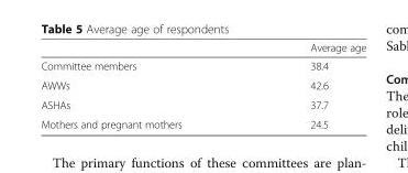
<table><thead><tr><td></td><td>Average age</td></tr></thead><tbody><tr><td>Committee members</td><td>38.4</td></tr><tr><td>AWWs</td><td>42.6</td></tr><tr><td>ASHAs</td><td>37.7</td></tr><tr><td>Mothers and pregnant mothers</td><td>24.5</td></tr></tbody></table>